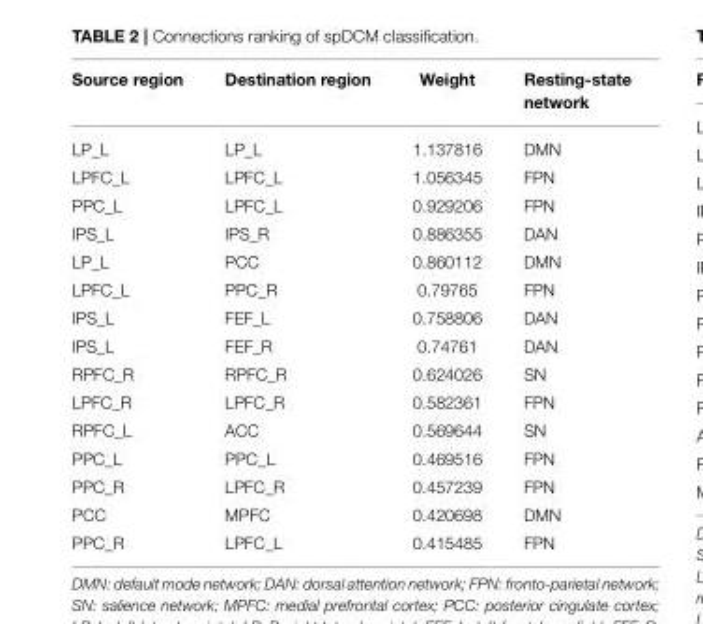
<table><thead><tr><td>Source region</td><td>Destination region</td><td>Weight</td><td>Resting-state network</td></tr></thead><tbody><tr><td>LP_L</td><td>LP_L</td><td>1.137816</td><td>DMN</td></tr><tr><td>LPFC_L</td><td>LPFC_L</td><td>1.056345</td><td>FPN</td></tr><tr><td>PPC_L</td><td>LPFC_L</td><td>0.929206</td><td>FPN</td></tr><tr><td>IPS_L</td><td>IPS_R</td><td>0.886355</td><td>DAN</td></tr><tr><td>LP_L</td><td>PCC</td><td>0.860112</td><td>DMN</td></tr><tr><td>LPFC_L</td><td>PPC_R</td><td>0.79765</td><td>FPN</td></tr><tr><td>IPS_L</td><td>FEF_L</td><td>0.758806</td><td>DAN</td></tr><tr><td>IPS_L</td><td>FEF_R</td><td>0.74761</td><td>DAN</td></tr><tr><td>RPFC_R</td><td>RPFC_R</td><td>0.624026</td><td>SN</td></tr><tr><td>LPFC_R</td><td>LPFC_R</td><td>0.582361</td><td>FPN</td></tr><tr><td>RPFC_L</td><td>ACC</td><td>0.569644</td><td>SN</td></tr><tr><td>PPC_L</td><td>PPC_L</td><td>0.469516</td><td>FPN</td></tr><tr><td>PPC_R</td><td>LPFC_R</td><td>0.457239</td><td>FPN</td></tr><tr><td>PCC</td><td>MPFC</td><td>0.420698</td><td>DMN</td></tr><tr><td>PPC_R</td><td>LPFC_L</td><td>0.415485</td><td>FPN</td></tr></tbody></table>